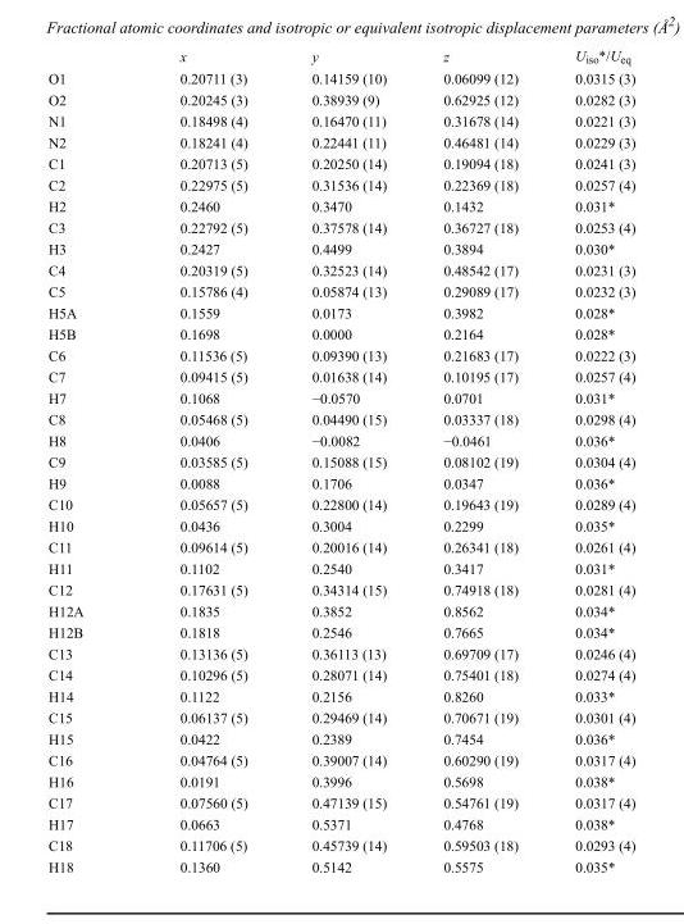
<table><thead><tr><td></td><td>x</td><td>y</td><td>z</td><td>U<sub>iso</sub>*/U<sub>eq</sub></td></tr></thead><tbody><tr><td>O1</td><td>0.20711 (3)</td><td>0.14159 (10)</td><td>0.06099 (12)</td><td>0.0315 (3)</td></tr><tr><td>O2</td><td>0.20245 (3)</td><td>0.38939 (9)</td><td>0.62925 (12)</td><td>0.0282 (3)</td></tr><tr><td>N1</td><td>0.18498 (4)</td><td>0.16470 (11)</td><td>0.31678 (14)</td><td>0.0221 (3)</td></tr><tr><td>N2</td><td>0.18241 (4)</td><td>0.22441 (11)</td><td>0.46481 (14)</td><td>0.0229 (3)</td></tr><tr><td>C1</td><td>0.20713 (5)</td><td>0.20250 (14)</td><td>0.19094 (18)</td><td>0.0241 (3)</td></tr><tr><td>C2</td><td>0.22975 (5)</td><td>0.31536 (14)</td><td>0.22369 (18)</td><td>0.0257 (4)</td></tr><tr><td>H2</td><td>0.2460</td><td>0.3470</td><td>0.1432</td><td>0.031*</td></tr><tr><td>C3</td><td>0.22792 (5)</td><td>0.37578 (14)</td><td>0.36727 (18)</td><td>0.0253 (4)</td></tr><tr><td>H3</td><td>0.2427</td><td>0.4499</td><td>0.3894</td><td>0.030*</td></tr><tr><td>C4</td><td>0.20319 (5)</td><td>0.32523 (14)</td><td>0.48542 (17)</td><td>0.0231 (3)</td></tr><tr><td>C5</td><td>0.15786 (4)</td><td>0.05874 (13)</td><td>0.29089 (17)</td><td>0.0232 (3)</td></tr><tr><td>H5A</td><td>0.1559</td><td>0.0173</td><td>0.3982</td><td>0.028*</td></tr><tr><td>H5B</td><td>0.1698</td><td>0.0000</td><td>0.2164</td><td>0.028*</td></tr><tr><td>C6</td><td>0.11536 (5)</td><td>0.09390 (13)</td><td>0.21683 (17)</td><td>0.0222 (3)</td></tr><tr><td>C7</td><td>0.09415 (5)</td><td>0.01638 (14)</td><td>0.10195 (17)</td><td>0.0257 (4)</td></tr><tr><td>H7</td><td>0.1068</td><td>−0.0570</td><td>0.0701</td><td>0.031*</td></tr><tr><td>C8</td><td>0.05468 (5)</td><td>0.04490 (15)</td><td>0.03337 (18)</td><td>0.0298 (4)</td></tr><tr><td>H8</td><td>0.0406</td><td>−0.0082</td><td>−0.0461</td><td>0.036*</td></tr><tr><td>C9</td><td>0.03585 (5)</td><td>0.15088 (15)</td><td>0.08102 (19)</td><td>0.0304 (4)</td></tr><tr><td>H9</td><td>0.0088</td><td>0.1706</td><td>0.0347</td><td>0.036*</td></tr><tr><td>C10</td><td>0.05657 (5)</td><td>0.22800 (14)</td><td>0.19643 (19)</td><td>0.0289 (4)</td></tr><tr><td>H10</td><td>0.0436</td><td>0.3004</td><td>0.2299</td><td>0.035*</td></tr><tr><td>C11</td><td>0.09614 (5)</td><td>0.20016 (14)</td><td>0.26341 (18)</td><td>0.0261 (4)</td></tr><tr><td>H11</td><td>0.1102</td><td>0.2540</td><td>0.3417</td><td>0.031*</td></tr><tr><td>C12</td><td>0.17631 (5)</td><td>0.34314 (15)</td><td>0.74918 (18)</td><td>0.0281 (4)</td></tr><tr><td>H12A</td><td>0.1835</td><td>0.3852</td><td>0.8562</td><td>0.034*</td></tr><tr><td>H12B</td><td>0.1818</td><td>0.2546</td><td>0.7665</td><td>0.034*</td></tr><tr><td>C13</td><td>0.13136 (5)</td><td>0.36113 (13)</td><td>0.69709 (17)</td><td>0.0246 (4)</td></tr><tr><td>C14</td><td>0.10296 (5)</td><td>0.28071 (14)</td><td>0.75401 (18)</td><td>0.0274 (4)</td></tr><tr><td>H14</td><td>0.1122</td><td>0.2156</td><td>0.8260</td><td>0.033*</td></tr><tr><td>C15</td><td>0.06137 (5)</td><td>0.29469 (14)</td><td>0.70671 (19)</td><td>0.0301 (4)</td></tr><tr><td>H15</td><td>0.0422</td><td>0.2389</td><td>0.7454</td><td>0.036*</td></tr><tr><td>C16</td><td>0.04764 (5)</td><td>0.39007 (14)</td><td>0.60290 (19)</td><td>0.0317 (4)</td></tr><tr><td>H16</td><td>0.0191</td><td>0.3996</td><td>0.5698</td><td>0.038*</td></tr><tr><td>C17</td><td>0.07560 (5)</td><td>0.47139 (15)</td><td>0.54761 (19)</td><td>0.0317 (4)</td></tr><tr><td>H17</td><td>0.0663</td><td>0.5371</td><td>0.4768</td><td>0.038*</td></tr><tr><td>C18</td><td>0.11706 (5)</td><td>0.45739 (14)</td><td>0.59503 (18)</td><td>0.0293 (4)</td></tr><tr><td>H18</td><td>0.1360</td><td>0.5142</td><td>0.5575</td><td>0.035*</td></tr></tbody></table>